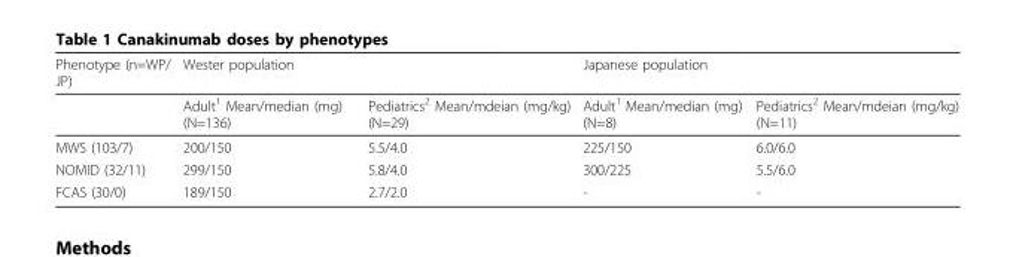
<table><thead><tr><td rowspan="2">Phenotype (n=WP/ JP)</td><td colspan="2">Wester population</td><td colspan="2">Japanese population</td></tr><tr><td>Adult<sup>1</sup> Mean/median (mg) (N=136)</td><td>Pediatrics<sup>2</sup> Mean/mdeian (mg/kg) (N=29)</td><td>Adult<sup>1</sup> Mean/median (mg) (N=8)</td><td>Pediatrics<sup>2</sup> Mean/mdeian (mg/kg) (N=11)</td></tr></thead><tbody><tr><td>MWS (103/7)</td><td>200/150</td><td>5.5/4.0</td><td>225/150</td><td>6.0/6.0</td></tr><tr><td>NOMID (32/11)</td><td>299/150</td><td>5.8/4.0</td><td>300/225</td><td>5.5/6.0</td></tr><tr><td>FCAS (30/0)</td><td>189/150</td><td>2.7/2.0</td><td>-</td><td>-</td></tr></tbody></table>